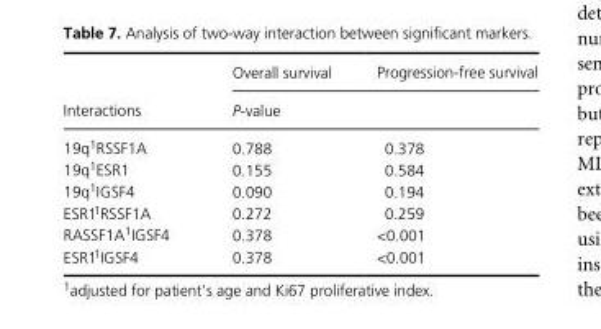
<table><thead><tr><td rowspan="2">Interactions</td><td>Overall survival</td><td>Progression- free survival</td></tr><tr><td colspan="2">P- value</td></tr></thead><tbody><tr><td>19q1RSSF1A</td><td>0.788</td><td>0.378</td></tr><tr><td>19q1ESR1</td><td>0.155</td><td>0.584</td></tr><tr><td>19q1IGSF4</td><td>0.090</td><td>0.194</td></tr><tr><td>ESR1<sup>1</sup>RSSF1A</td><td>0.272</td><td>0.259</td></tr><tr><td>RASSF1A1IGSF4</td><td>0.378</td><td>&lt;0.001</td></tr><tr><td>ESR11IGSF4</td><td>0.378</td><td>&lt;0.001</td></tr></tbody></table>